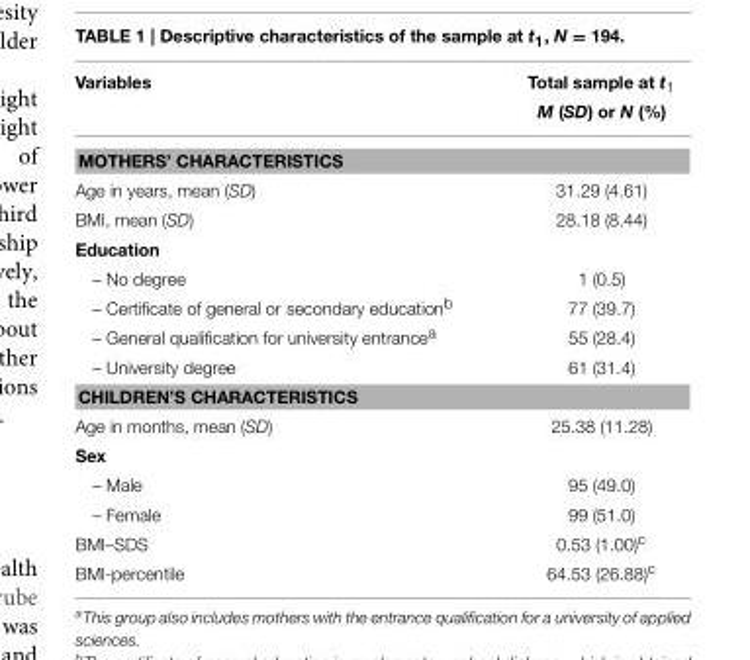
<table><thead><tr><td>Variables</td><td>Total sample at t<sub>1</sub> M (SD) or N (%)</td></tr></thead><tbody><tr><td colspan="2">MOTHERS’ CHARACTERISTICS</td></tr><tr><td>Age in years, mean (SD)</td><td>31.29 (4.61)</td></tr><tr><td>BMI, mean (SD)</td><td>28.18 (8.44)</td></tr><tr><td colspan="2">Education</td></tr><tr><td>– No degree</td><td>1 (0.5)</td></tr><tr><td>– Certificate of general or secondary education<sup>b</sup></td><td>77 (39.7)</td></tr><tr><td>– General qualification for university entrance<sup>a</sup></td><td>55 (28.4)</td></tr><tr><td>– University degree</td><td>61 (31.4)</td></tr><tr><td colspan="2">CHILDREN’S CHARACTERISTICS</td></tr><tr><td>Age in months, mean (SD)</td><td>25.38 (11.28)</td></tr><tr><td colspan="2">Sex</td></tr><tr><td>– Male</td><td>95 (49.0)</td></tr><tr><td>– Female</td><td>99 (51.0)</td></tr><tr><td>BMI–SDS</td><td>0.53 (1.00)<sup>c</sup></td></tr><tr><td>BMI-percentile</td><td>64.53 (26.88)<sup>c</sup></td></tr></tbody></table>